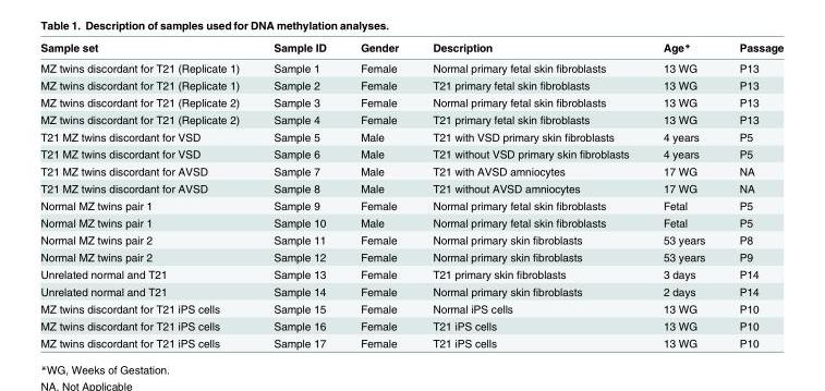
<table><thead><tr><td>Sample set</td><td>Sample ID</td><td>Gender</td><td>Description</td><td>Age*</td><td>Passage</td></tr></thead><tbody><tr><td>MZ twins discordant for T21 (Replicate 1)</td><td>Sample 1</td><td>Female</td><td>Normal primary fetal skin fibroblasts</td><td>13 WG</td><td>P13</td></tr><tr><td>MZ twins discordant for T21 (Replicate 1)</td><td>Sample 2</td><td>Female</td><td>T21 primary fetal skin fibroblasts</td><td>13 WG</td><td>P13</td></tr><tr><td>MZ twins discordant for T21 (Replicate 2)</td><td>Sample 3</td><td>Female</td><td>Normal primary fetal skin fibroblasts</td><td>13 WG</td><td>P13</td></tr><tr><td>MZ twins discordant for T21 (Replicate 2)</td><td>Sample 4</td><td>Female</td><td>T21 primary fetal skin fibroblasts</td><td>13 WG</td><td>P13</td></tr><tr><td>T21 MZ twins discordant for VSD</td><td>Sample 5</td><td>Male</td><td>T21 with VSD primary skin fibroblasts</td><td>4 years</td><td>P5</td></tr><tr><td>T21 MZ twins discordant for VSD</td><td>Sample 6</td><td>Male</td><td>T21 without VSD primary skin fibroblasts</td><td>4 years</td><td>P5</td></tr><tr><td>T21 MZ twins discordant for AVSD</td><td>Sample 7</td><td>Male</td><td>T21 with AVSD amniocytes</td><td>17 WG</td><td>NA</td></tr><tr><td>T21 MZ twins discordant for AVSD</td><td>Sample 8</td><td>Male</td><td>T21 without AVSD amniocytes</td><td>17 WG</td><td>NA</td></tr><tr><td>Normal MZ twins pair 1</td><td>Sample 9</td><td>Female</td><td>Normal primary fetal skin fibroblasts</td><td>Fetal</td><td>P5</td></tr><tr><td>Normal MZ twins pair 1</td><td>Sample 10</td><td>Male</td><td>Normal primary fetal skin fibroblasts</td><td>Fetal</td><td>P5</td></tr><tr><td>Normal MZ twins pair 2</td><td>Sample 11</td><td>Female</td><td>Normal primary skin fibroblasts</td><td>53 years</td><td>P8</td></tr><tr><td>Normal MZ twins pair 2</td><td>Sample 12</td><td>Female</td><td>Normal primary skin fibroblasts</td><td>53 years</td><td>P9</td></tr><tr><td>Unrelated normal and T21</td><td>Sample 13</td><td>Female</td><td>T21 primary skin fibroblasts</td><td>3 days</td><td>P14</td></tr><tr><td>Unrelated normal and T21</td><td>Sample 14</td><td>Female</td><td>Normal primary skin fibroblasts</td><td>2 days</td><td>P14</td></tr><tr><td>MZ twins discordant for T21 iPS cells</td><td>Sample 15</td><td>Female</td><td>Normal iPS cells</td><td>13 WG</td><td>P10</td></tr><tr><td>MZ twins discordant for T21 iPS cells</td><td>Sample 16</td><td>Female</td><td>T21 iPS cells</td><td>13 WG</td><td>P10</td></tr><tr><td>MZ twins discordant for T21 iPS cells</td><td>Sample 17</td><td>Female</td><td>T21 iPS cells</td><td>13 WG</td><td>P10</td></tr></tbody></table>